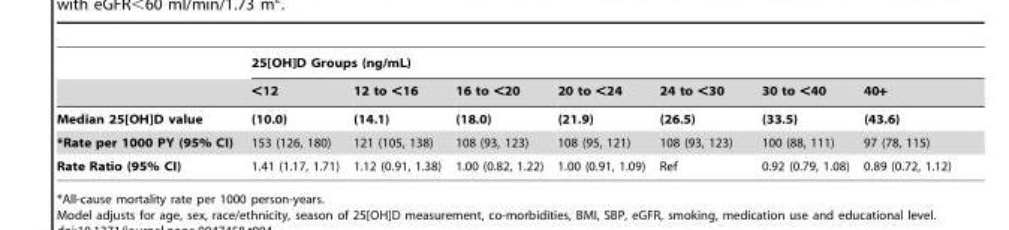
<table><thead><tr><td rowspan="2"></td><td colspan="7">25[OH]D Groups (ng/mL)</td></tr><tr><td>&lt;12</td><td>12 to &lt;16</td><td>16 to &lt;20</td><td>20 to &lt;24</td><td>24 to &lt;30</td><td>30 to &lt;40</td><td>40+</td></tr></thead><tbody><tr><td>Median 25[OH]D value</td><td>(10.0)</td><td>(14.1)</td><td>(18.0)</td><td>(21.9)</td><td>(26.5)</td><td>(33.5)</td><td>(43.6)</td></tr><tr><td>*Rate per 1000 PY (95% CI)</td><td>153 (126, 180)</td><td>121 (105, 138)</td><td>108 (93, 123)</td><td>108 (95, 121)</td><td>108 (93, 123)</td><td>100 (88, 111)</td><td>97 (78, 115)</td></tr><tr><td>Rate Ratio (95% CI)</td><td>1.41 (1.17, 1.71)</td><td>1.12 (0.91, 1.38)</td><td>1.00 (0.82, 1.22)</td><td>1.00 (0.91, 1.09)</td><td>Ref</td><td>0.92 (0.79, 1.08)</td><td>0.89 (0.72, 1.12)</td></tr></tbody></table>